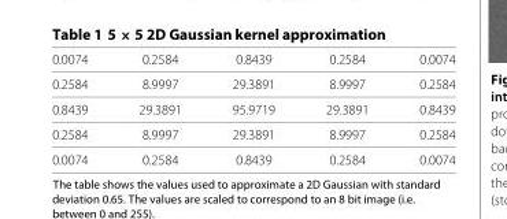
<table><thead><tr><td>0.0074</td><td>0.2584</td><td>0.8439</td><td>0.2584</td><td>0.0074</td></tr></thead><tbody><tr><td>0.2584</td><td>8.9997</td><td>29.3891</td><td>8.9997</td><td>0.2584</td></tr><tr><td>0.8439</td><td>29.3891</td><td>95.9719</td><td>29.3891</td><td>0.8439</td></tr><tr><td>0.2584</td><td>8.9997</td><td>29.3891</td><td>8.9997</td><td>0.2584</td></tr><tr><td>0.0074</td><td>0.2584</td><td>0.8439</td><td>0.2584</td><td>0.0074</td></tr></tbody></table>